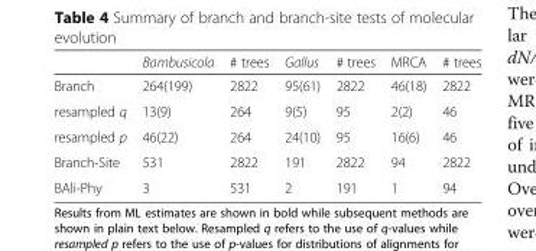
<table><thead><tr><td></td><td>Bambusicola</td><td># trees</td><td>Gallus</td><td># trees</td><td>MRCA</td><td># trees</td></tr></thead><tbody><tr><td>Branch</td><td>264(199)</td><td>2822</td><td>95(61)</td><td>2822</td><td>46(18)</td><td>2822</td></tr><tr><td>resampled q</td><td>13(9)</td><td>264</td><td>9(5)</td><td>95</td><td>2(2)</td><td>46</td></tr><tr><td>resampled p</td><td>46(22)</td><td>264</td><td>24(10)</td><td>95</td><td>16(6)</td><td>46</td></tr><tr><td>Branch-Site</td><td>531</td><td>2822</td><td>191</td><td>2822</td><td>94</td><td>2822</td></tr><tr><td>BAli-Phy</td><td>3</td><td>531</td><td>2</td><td>191</td><td>1</td><td>94</td></tr></tbody></table>